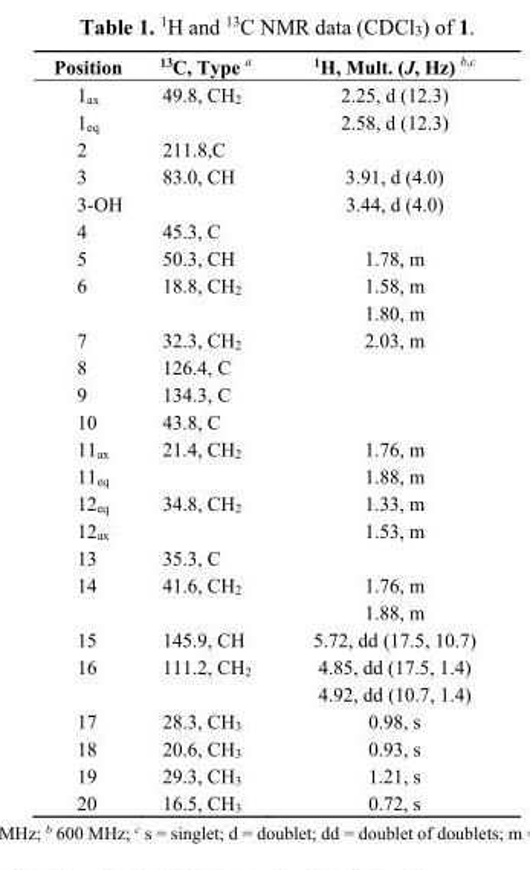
<table><thead><tr><td>Position</td><td><sup>13</sup>C, Type <sup>a</sup></td><td><sup>1</sup>H, Mult. (J, Hz) <sup>b,c</sup></td></tr></thead><tbody><tr><td>1<sub>ax</sub></td><td>49.8, CH<sub>2</sub></td><td>2.25, d (12.3)</td></tr><tr><td>1<sub>eq</sub></td><td></td><td>2.58, d (12.3)</td></tr><tr><td>2</td><td>211.8,C</td><td></td></tr><tr><td>3</td><td>83.0, CH</td><td>3.91, d (4.0)</td></tr><tr><td>3-OH</td><td></td><td>3.44, d (4.0)</td></tr><tr><td>4</td><td>45.3, C</td><td></td></tr><tr><td>5</td><td>50.3, CH</td><td>1.78, m</td></tr><tr><td rowspan="2">6</td><td>18.8, CH<sub>2</sub></td><td>1.58, m</td></tr><tr><td></td><td>1.80, m</td></tr><tr><td>7</td><td>32.3, CH<sub>2</sub></td><td>2.03, m</td></tr><tr><td>8</td><td>126.4, C</td><td></td></tr><tr><td>9</td><td>134.3, C</td><td></td></tr><tr><td>10</td><td>43.8, C</td><td></td></tr><tr><td>11<sub>ax</sub></td><td>21.4, CH<sub>2</sub></td><td>1.76, m</td></tr><tr><td>11<sub>eq</sub></td><td></td><td>1.88, m</td></tr><tr><td>12<sub>eq</sub></td><td>34.8, CH<sub>2</sub></td><td>1.33, m</td></tr><tr><td>12<sub>ax</sub></td><td></td><td>1.53, m</td></tr><tr><td>13</td><td>35.3, C</td><td></td></tr><tr><td rowspan="2">14</td><td>41.6, CH<sub>2</sub></td><td>1.76, m</td></tr><tr><td></td><td>1.88, m</td></tr><tr><td>15</td><td>145.9, CH</td><td>5.72, dd (17.5, 10.7)</td></tr><tr><td rowspan="2">16</td><td>111.2, CH<sub>2</sub></td><td>4.85, dd (17.5, 1.4)</td></tr><tr><td></td><td>4.92, dd (10.7, 1.4)</td></tr><tr><td>17</td><td>28.3, CH<sub>3</sub></td><td>0.98, s</td></tr><tr><td>18</td><td>20.6, CH<sub>3</sub></td><td>0.93, s</td></tr><tr><td>19</td><td>29.3, CH<sub>3</sub></td><td>1.21, s</td></tr><tr><td>20</td><td>16.5, CH<sub>3</sub></td><td>0.72, s</td></tr></tbody></table>